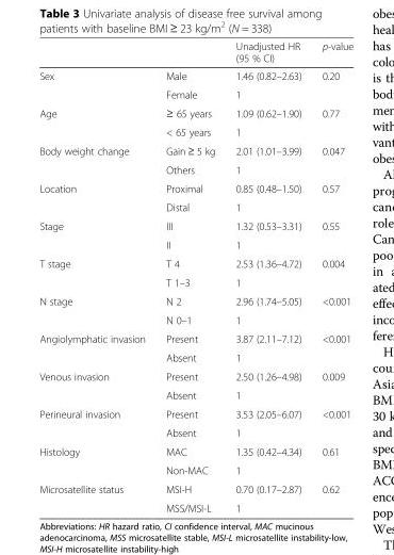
<table><thead><tr><td></td><td></td><td>Unadjusted HR (95 % CI)</td><td>p-value</td></tr></thead><tbody><tr><td rowspan="2">Sex</td><td>Male</td><td>1.46 (0.82–2.63)</td><td>0.20</td></tr><tr><td>Female</td><td>1</td><td></td></tr><tr><td rowspan="2">Age</td><td>≥ 65 years</td><td>1.09 (0.62–1.90)</td><td>0.77</td></tr><tr><td>&lt; 65 years</td><td>1</td><td></td></tr><tr><td rowspan="2">Body weight change</td><td>Gain ≥ 5 kg</td><td>2.01 (1.01–3.99)</td><td>0.047</td></tr><tr><td>Others</td><td>1</td><td></td></tr><tr><td rowspan="2">Location</td><td>Proximal</td><td>0.85 (0.48–1.50)</td><td>0.57</td></tr><tr><td>Distal</td><td>1</td><td></td></tr><tr><td rowspan="2">Stage</td><td>III</td><td>1.32 (0.53–3.31)</td><td>0.55</td></tr><tr><td>II</td><td>1</td><td></td></tr><tr><td rowspan="2">T stage</td><td>T 4</td><td>2.53 (1.36–4.72)</td><td>0.004</td></tr><tr><td>T 1–3</td><td>1</td><td></td></tr><tr><td rowspan="2">N stage</td><td>N 2</td><td>2.96 (1.74–5.05)</td><td>&lt;0.001</td></tr><tr><td>N 0–1</td><td>1</td><td></td></tr><tr><td rowspan="2">Angiolymphatic invasion</td><td>Present</td><td>3.87 (2.11–7.12)</td><td>&lt;0.001</td></tr><tr><td>Absent</td><td>1</td><td></td></tr><tr><td rowspan="2">Venous invasion</td><td>Present</td><td>2.50 (1.26–4.98)</td><td>0.009</td></tr><tr><td>Absent</td><td>1</td><td></td></tr><tr><td rowspan="2">Perineural invasion</td><td>Present</td><td>3.53 (2.05–6.07)</td><td>&lt;0.001</td></tr><tr><td>Absent</td><td>1</td><td></td></tr><tr><td rowspan="2">Histology</td><td>MAC</td><td>1.35 (0.42–4.34)</td><td>0.61</td></tr><tr><td>Non-MAC</td><td>1</td><td></td></tr><tr><td rowspan="2">Microsatellite status</td><td>MSI-H</td><td>0.70 (0.17–2.87)</td><td>0.62</td></tr><tr><td>MSS/MSI-L</td><td>1</td><td></td></tr></tbody></table>